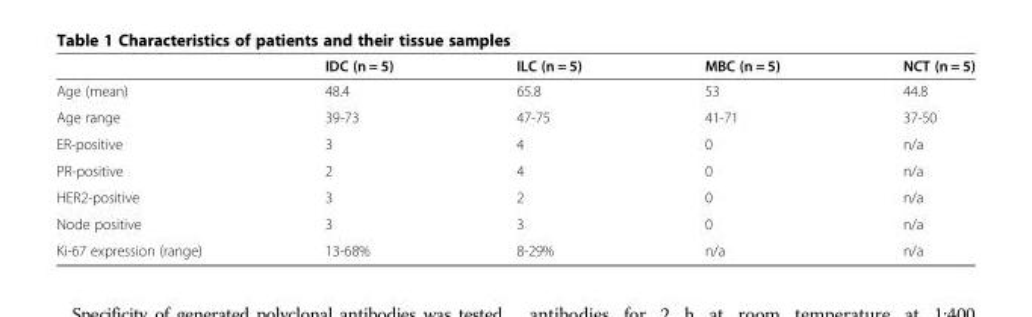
<table><thead><tr><td></td><td>IDC (n = 5)</td><td>ILC (n = 5)</td><td>MBC (n = 5)</td><td>NCT (n = 5)</td></tr></thead><tbody><tr><td>Age (mean)</td><td>48.4</td><td>65.8</td><td>53</td><td>44.8</td></tr><tr><td>Age range</td><td>39-73</td><td>47-75</td><td>41-71</td><td>37-50</td></tr><tr><td>ER-positive</td><td>3</td><td>4</td><td>0</td><td>n/a</td></tr><tr><td>PR-positive</td><td>2</td><td>4</td><td>0</td><td>n/a</td></tr><tr><td>HER2-positive</td><td>3</td><td>2</td><td>0</td><td>n/a</td></tr><tr><td>Node positive</td><td>3</td><td>3</td><td>0</td><td>n/a</td></tr><tr><td>Ki-67 expression (range)</td><td>13-68%</td><td>8-29%</td><td>n/a</td><td>n/a</td></tr></tbody></table>